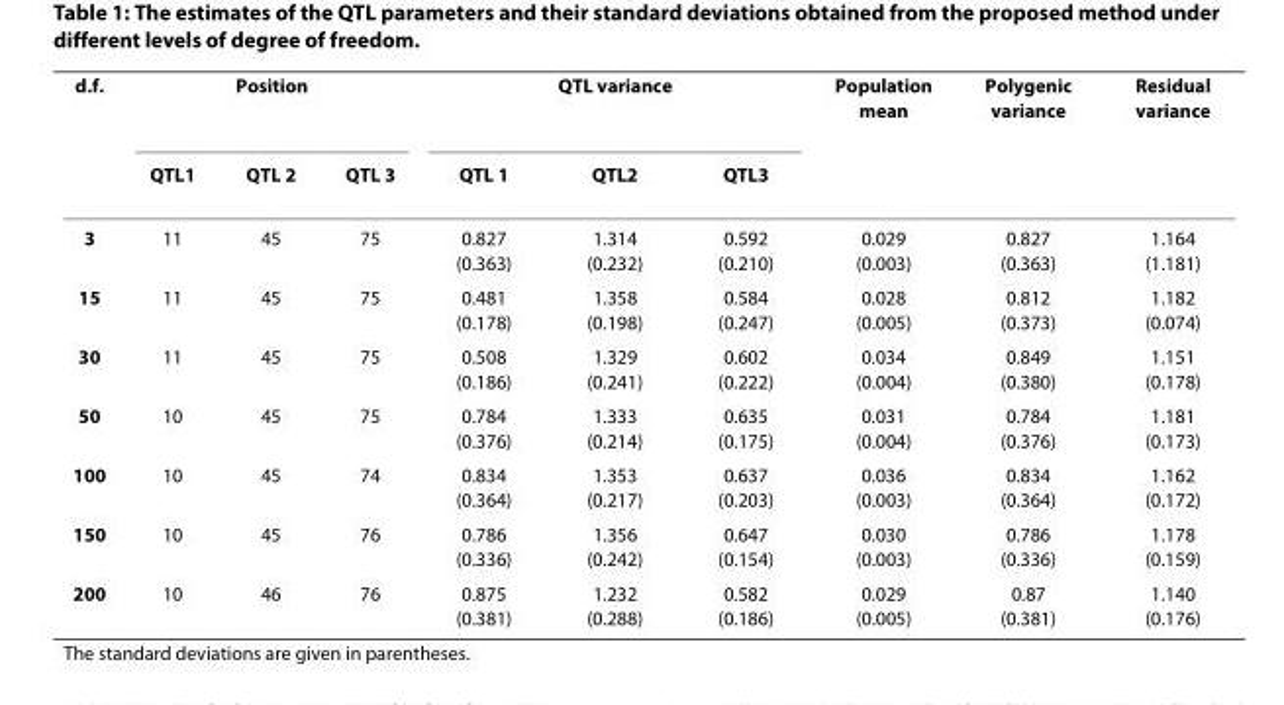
<table><thead><tr><td rowspan="2">d.f.</td><td colspan="3">Position</td><td colspan="3">QTL variance</td><td rowspan="2">Population mean</td><td rowspan="2">Polygenic variance</td><td rowspan="2">Residual variance</td></tr><tr><td>QTL1</td><td>QTL 2</td><td>QTL 3</td><td>QTL 1</td><td>QTL2</td><td>QTL3</td></tr></thead><tbody><tr><td>3</td><td>11</td><td>45</td><td>75</td><td>0.827 (0.363)</td><td>1.314 (0.232)</td><td>0.592 (0.210)</td><td>0.029 (0.003)</td><td>0.827 (0.363)</td><td>1.164 (1.181)</td></tr><tr><td>15</td><td>11</td><td>45</td><td>75</td><td>0.481 (0.178)</td><td>1.358 (0.198)</td><td>0.584 (0.247)</td><td>0.028 (0.005)</td><td>0.812 (0.373)</td><td>1.182 (0.074)</td></tr><tr><td>30</td><td>11</td><td>45</td><td>75</td><td>0.508 (0.186)</td><td>1.329 (0.241)</td><td>0.602 (0.222)</td><td>0.034 (0.004)</td><td>0.849 (0.380)</td><td>1.151 (0.178)</td></tr><tr><td>50</td><td>10</td><td>45</td><td>75</td><td>0.784 (0.376)</td><td>1.333 (0.214)</td><td>0.635 (0.175)</td><td>0.031 (0.004)</td><td>0.784 (0.376)</td><td>1.181 (0.173)</td></tr><tr><td>100</td><td>10</td><td>45</td><td>74</td><td>0.834 (0.364)</td><td>1.353 (0.217)</td><td>0.637 (0.203)</td><td>0.036 (0.003)</td><td>0.834 (0.364)</td><td>1.162 (0.172)</td></tr><tr><td>150</td><td>10</td><td>45</td><td>76</td><td>0.786 (0.336)</td><td>1.356 (0.242)</td><td>0.647 (0.154)</td><td>0.030 (0.003)</td><td>0.786 (0.336)</td><td>1.178 (0.159)</td></tr><tr><td>200</td><td>10</td><td>46</td><td>76</td><td>0.875 (0.381)</td><td>1.232 (0.288)</td><td>0.582 (0.186)</td><td>0.029 (0.005)</td><td>0.87 (0.381)</td><td>1.140 (0.176)</td></tr></tbody></table>